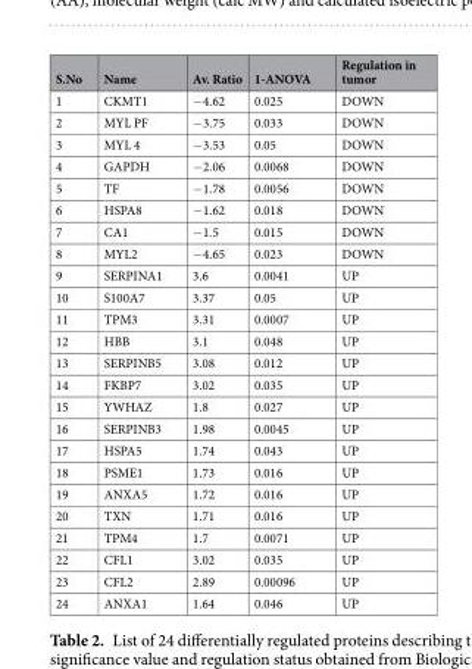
<table><thead><tr><td>S.No</td><td>Name</td><td>Av. Ratio</td><td>1-ANOVA</td><td>Regulation in tumor</td></tr></thead><tbody><tr><td>1</td><td>CKMT1</td><td>−4.62</td><td>0.025</td><td>DOWN</td></tr><tr><td>2</td><td>MYL PF</td><td>−3.75</td><td>0.033</td><td>DOWN</td></tr><tr><td>3</td><td>MYL 4</td><td>−3.53</td><td>0.05</td><td>DOWN</td></tr><tr><td>4</td><td>GAPDH</td><td>−2.06</td><td>0.0068</td><td>DOWN</td></tr><tr><td>5</td><td>TF</td><td>−1.78</td><td>0.0056</td><td>DOWN</td></tr><tr><td>6</td><td>HSPA8</td><td>−1.62</td><td>0.018</td><td>DOWN</td></tr><tr><td>7</td><td>CA1</td><td>−1.5</td><td>0.015</td><td>DOWN</td></tr><tr><td>8</td><td>MYL2</td><td>−4.65</td><td>0.023</td><td>DOWN</td></tr><tr><td>9</td><td>SERPINA1</td><td>3.6</td><td>0.0041</td><td>UP</td></tr><tr><td>10</td><td>S100A7</td><td>3.37</td><td>0.05</td><td>UP</td></tr><tr><td>11</td><td>TPM3</td><td>3.31</td><td>0.0007</td><td>UP</td></tr><tr><td>12</td><td>HBB</td><td>3.1</td><td>0.048</td><td>UP</td></tr><tr><td>13</td><td>SERPINB5</td><td>3.08</td><td>0.012</td><td>UP</td></tr><tr><td>14</td><td>FKBP7</td><td>3.02</td><td>0.035</td><td>UP</td></tr><tr><td>15</td><td>YWHAZ</td><td>1.8</td><td>0.027</td><td>UP</td></tr><tr><td>16</td><td>SERPINB3</td><td>1.98</td><td>0.0045</td><td>UP</td></tr><tr><td>17</td><td>HSPA5</td><td>1.74</td><td>0.043</td><td>UP</td></tr><tr><td>18</td><td>PSME1</td><td>1.73</td><td>0.016</td><td>UP</td></tr><tr><td>19</td><td>ANXA5</td><td>1.72</td><td>0.016</td><td>UP</td></tr><tr><td>20</td><td>TXN</td><td>1.71</td><td>0.016</td><td>UP</td></tr><tr><td>21</td><td>TPM4</td><td>1.7</td><td>0.0071</td><td>UP</td></tr><tr><td>22</td><td>CFL1</td><td>3.02</td><td>0.035</td><td>UP</td></tr><tr><td>23</td><td>CFL2</td><td>2.89</td><td>0.00096</td><td>UP</td></tr><tr><td>24</td><td>ANXA1</td><td>1.64</td><td>0.046</td><td>UP</td></tr></tbody></table>